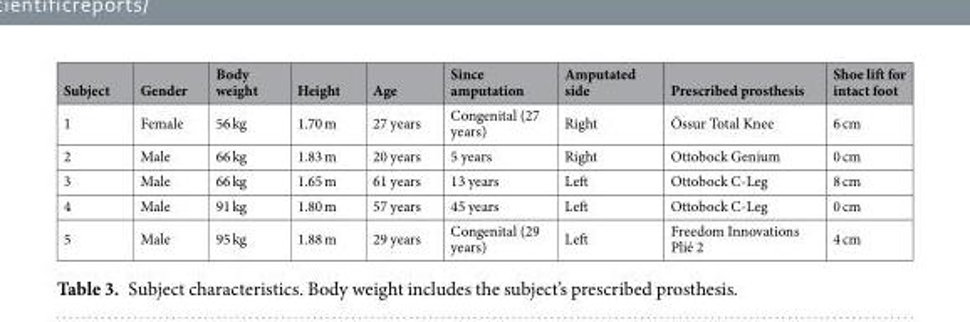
<table><thead><tr><td>Subject</td><td>Gender</td><td>Body weight</td><td>Height</td><td>Age</td><td>Since amputation</td><td>Amputated side</td><td>Prescribed prosthesis</td><td>Shoe lift for intact foot</td></tr></thead><tbody><tr><td>1</td><td>Female</td><td>56 kg</td><td>1.70 m</td><td>27 years</td><td>Congenital (27 years)</td><td>Right</td><td>Össur Total Knee</td><td>6 cm</td></tr><tr><td>2</td><td>Male</td><td>66 kg</td><td>1.83 m</td><td>20 years</td><td>5 years</td><td>Right</td><td>Ottobock Genium</td><td>0 cm</td></tr><tr><td>3</td><td>Male</td><td>66 kg</td><td>1.65 m</td><td>61 years</td><td>13 years</td><td>Left</td><td>Ottobock C-Leg</td><td>8 cm</td></tr><tr><td>4</td><td>Male</td><td>91 kg</td><td>1.80 m</td><td>57 years</td><td>45 years</td><td>Left</td><td>Ottobock C-Leg</td><td>0 cm</td></tr><tr><td>5</td><td>Male</td><td>95 kg</td><td>1.88 m</td><td>29 years</td><td>Congenital (29 years)</td><td>Left</td><td>Freedom Innovations Plié 2</td><td>4 cm</td></tr></tbody></table>